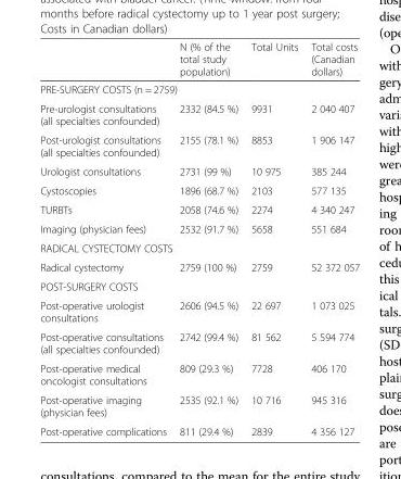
<table><thead><tr><td></td><td>N (% of the total study population)</td><td>Total Units</td><td>Total costs (Canadian dollars)</td></tr></thead><tbody><tr><td colspan="4">PRE-SURGERY COSTS (n = 2759)</td></tr><tr><td>Pre-urologist consultations (all specialties confounded)</td><td>2332 (84.5 %)</td><td>9931</td><td>2 040 407</td></tr><tr><td>Post-urologist consultations (all specialties confounded)</td><td>2155 (78.1 %)</td><td>8853</td><td>1 906 147</td></tr><tr><td>Urologist consultations</td><td>2731 (99 %)</td><td>10 975</td><td>385 244</td></tr><tr><td>Cystoscopies</td><td>1896 (68.7 %)</td><td>2103</td><td>577 135</td></tr><tr><td>TURBTs</td><td>2058 (74.6 %)</td><td>2274</td><td>4 340 247</td></tr><tr><td>Imaging (physician fees)</td><td>2532 (91.7 %)</td><td>5658</td><td>551 684</td></tr><tr><td colspan="4">RADICAL CYSTECTOMY COSTS</td></tr><tr><td>Radical cystectomy</td><td>2759 (100 %)</td><td>2759</td><td>52 372 057</td></tr><tr><td colspan="4">POST-SURGERY COSTS</td></tr><tr><td>Post-operative urologist consultations</td><td>2606 (94.5 %)</td><td>22 697</td><td>1 073 025</td></tr><tr><td>Post-operative consultations (all specialties confounded)</td><td>2742 (99.4 %)</td><td>81 562</td><td>5 594 774</td></tr><tr><td>Post-operative medical oncologist consultations</td><td>809 (29.3 %)</td><td>7728</td><td>406 170</td></tr><tr><td>Post-operative imaging (physician fees)</td><td>2535 (92.1 %)</td><td>10 716</td><td>945 316</td></tr><tr><td>Post-operative complications</td><td>811 (29.4 %)</td><td>2839</td><td>4 356 127</td></tr></tbody></table>